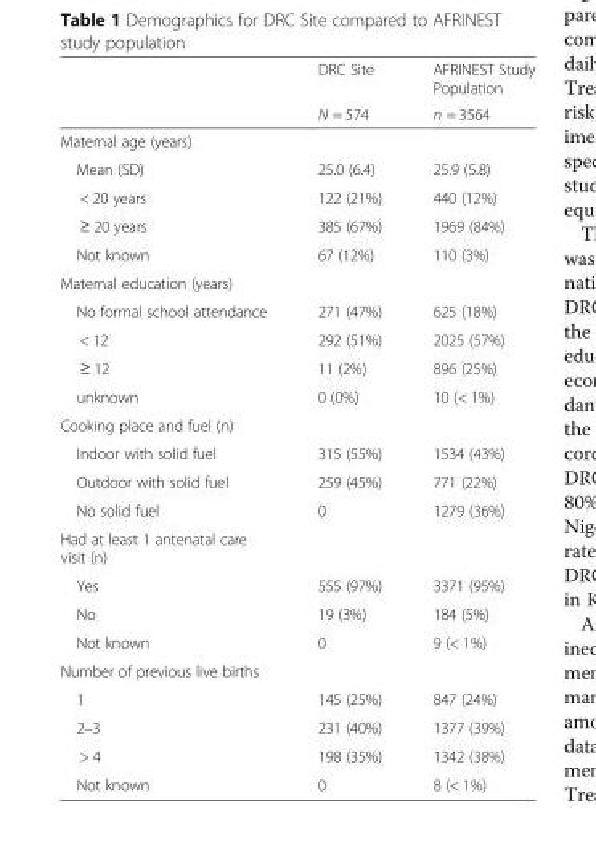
<table><thead><tr><td rowspan="2"></td><td rowspan="2">DRC Site N = 574</td><td rowspan="2">AFRINEST Study Population n = 3564</td></tr><tr></tr></thead><tbody><tr><td colspan="3">Maternal age (years)</td></tr><tr><td>Mean (SD)</td><td>25.0 (6.4)</td><td>25.9 (5.8)</td></tr><tr><td>&lt; 20 years</td><td>122 (21%)</td><td>440 (12%)</td></tr><tr><td>≥ 20 years</td><td>385 (67%)</td><td>1969 (84%)</td></tr><tr><td>Not known</td><td>67 (12%)</td><td>110 (3%)</td></tr><tr><td colspan="3">Maternal education (years)</td></tr><tr><td>No formal school attendance</td><td>271 (47%)</td><td>625 (18%)</td></tr><tr><td>&lt; 12</td><td>292 (51%)</td><td>2025 (57%)</td></tr><tr><td>≥ 12</td><td>11 (2%)</td><td>896 (25%)</td></tr><tr><td>unknown</td><td>0 (0%)</td><td>10 (&lt; 1%)</td></tr><tr><td colspan="3">Cooking place and fuel (n)</td></tr><tr><td>Indoor with solid fuel</td><td>315 (55%)</td><td>1534 (43%)</td></tr><tr><td>Outdoor with solid fuel</td><td>259 (45%)</td><td>771 (22%)</td></tr><tr><td>No solid fuel</td><td>0</td><td>1279 (36%)</td></tr><tr><td colspan="3">Had at least 1 antenatal care visit (n)</td></tr><tr><td>Yes</td><td>555 (97%)</td><td>3371 (95%)</td></tr><tr><td>No</td><td>19 (3%)</td><td>184 (5%)</td></tr><tr><td>Not known</td><td>0</td><td>9 (&lt; 1%)</td></tr><tr><td colspan="3">Number of previous live births</td></tr><tr><td>1</td><td>145 (25%)</td><td>847 (24%)</td></tr><tr><td>2–3</td><td>231 (40%)</td><td>1377 (39%)</td></tr><tr><td>&gt; 4</td><td>198 (35%)</td><td>1342 (38%)</td></tr><tr><td>Not known</td><td>0</td><td>8 (&lt; 1%)</td></tr></tbody></table>